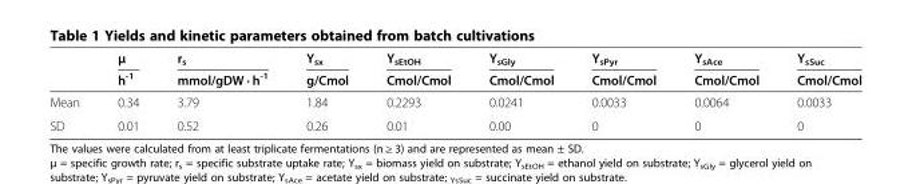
<table><thead><tr><td rowspan="2"></td><td rowspan="2">μ h<sup>-1</sup></td><td rowspan="2">r<sub>s</sub> mmol/gDW · h<sup>-1</sup></td><td rowspan="2">Y<sub>sx</sub> g/Cmol</td><td rowspan="2">Y<sub>sEtOH</sub> Cmol/Cmol</td><td rowspan="2">Y<sub>sGly</sub> Cmol/Cmol</td><td rowspan="2">Y<sub>sPyr</sub> Cmol/Cmol</td><td rowspan="2">Y<sub>sAce</sub> Cmol/Cmol</td><td rowspan="2">Y<sub>sSuc</sub> Cmol/Cmol</td></tr><tr></tr></thead><tbody><tr><td>Mean</td><td>0.34</td><td>3.79</td><td>1.84</td><td>0.2293</td><td>0.0241</td><td>0.0033</td><td>0.0064</td><td>0.0033</td></tr><tr><td>SD</td><td>0.01</td><td>0.52</td><td>0.26</td><td>0.01</td><td>0.00</td><td>0</td><td>0</td><td>0</td></tr></tbody></table>